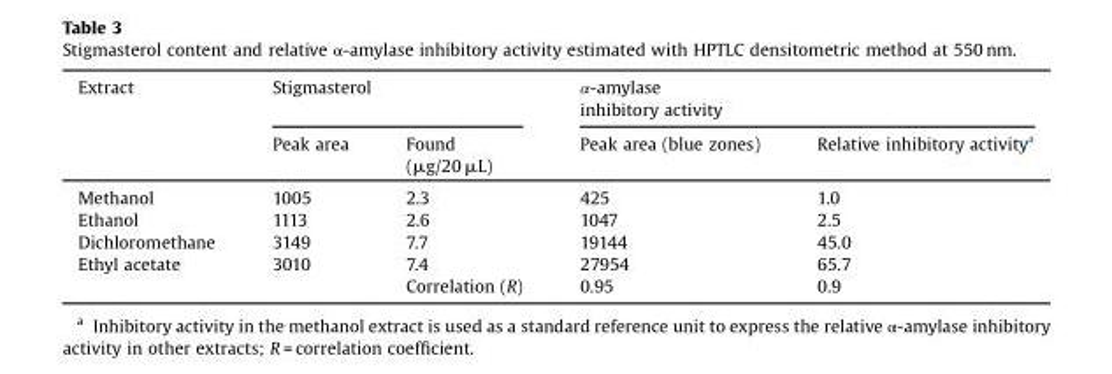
<table><thead><tr><td rowspan="2">Extract</td><td colspan="2">Stigmasterol</td><td colspan="2">α-amylase inhibitory activity</td></tr><tr><td>Peak area</td><td>Found (μg/20 μL)</td><td>Peak area (blue zones)</td><td>Relative inhibitory activity<sup>a</sup></td></tr></thead><tbody><tr><td>Methanol</td><td>1005</td><td>2.3</td><td>425</td><td>1.0</td></tr><tr><td>Ethanol</td><td>1113</td><td>2.6</td><td>1047</td><td>2.5</td></tr><tr><td>Dichloromethane</td><td>3149</td><td>7.7</td><td>19144</td><td>45.0</td></tr><tr><td rowspan="2">Ethyl acetate</td><td>3010</td><td>7.4</td><td>27954</td><td>65.7</td></tr><tr><td></td><td>Correlation (R)</td><td>0.95</td><td>0.9</td></tr></tbody></table>